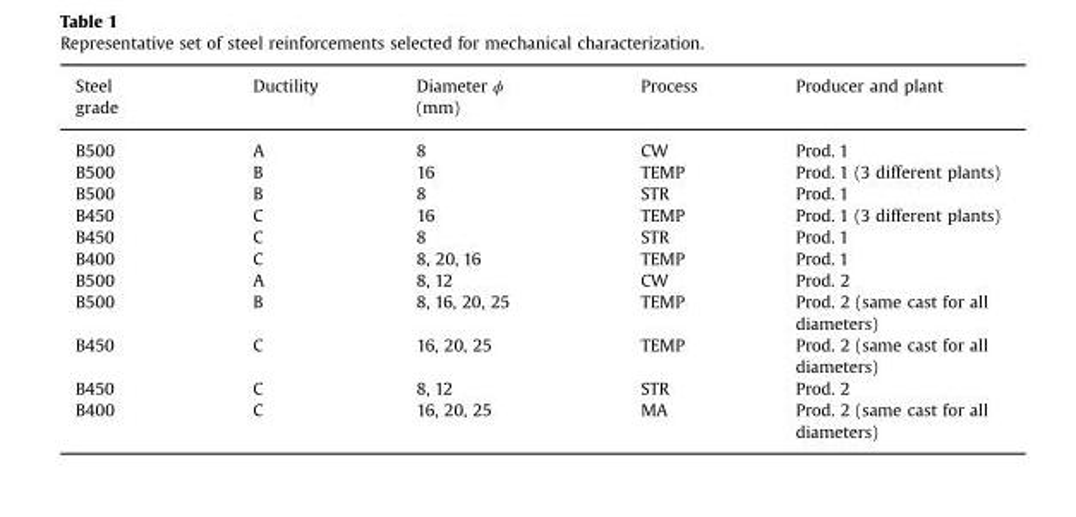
<table><thead><tr><td>Steel grade</td><td>Ductility</td><td>Diameter ϕ (mm)</td><td>Process</td><td>Producer and plant</td></tr></thead><tbody><tr><td>B500</td><td>A</td><td>8</td><td>CW</td><td>Prod. 1</td></tr><tr><td>B500</td><td>B</td><td>16</td><td>TEMP</td><td>Prod. 1 (3 different plants)</td></tr><tr><td>B500</td><td>B</td><td>8</td><td>STR</td><td>Prod. 1</td></tr><tr><td>B450</td><td>C</td><td>16</td><td>TEMP</td><td>Prod. 1 (3 different plants)</td></tr><tr><td>B450</td><td>C</td><td>8</td><td>STR</td><td>Prod. 1</td></tr><tr><td>B400</td><td>C</td><td>8, 20, 16</td><td>TEMP</td><td>Prod. 1</td></tr><tr><td>B500</td><td>A</td><td>8, 12</td><td>CW</td><td>Prod. 2</td></tr><tr><td>B500</td><td>B</td><td>8, 16, 20, 25</td><td>TEMP</td><td>Prod. 2 (same cast for all diameters)</td></tr><tr><td>B450</td><td>C</td><td>16, 20, 25</td><td>TEMP</td><td>Prod. 2 (same cast for all diameters)</td></tr><tr><td>B450</td><td>C</td><td>8, 12</td><td>STR</td><td>Prod. 2</td></tr><tr><td>B400</td><td>C</td><td>16, 20, 25</td><td>MA</td><td>Prod. 2 (same cast for all diameters)</td></tr></tbody></table>